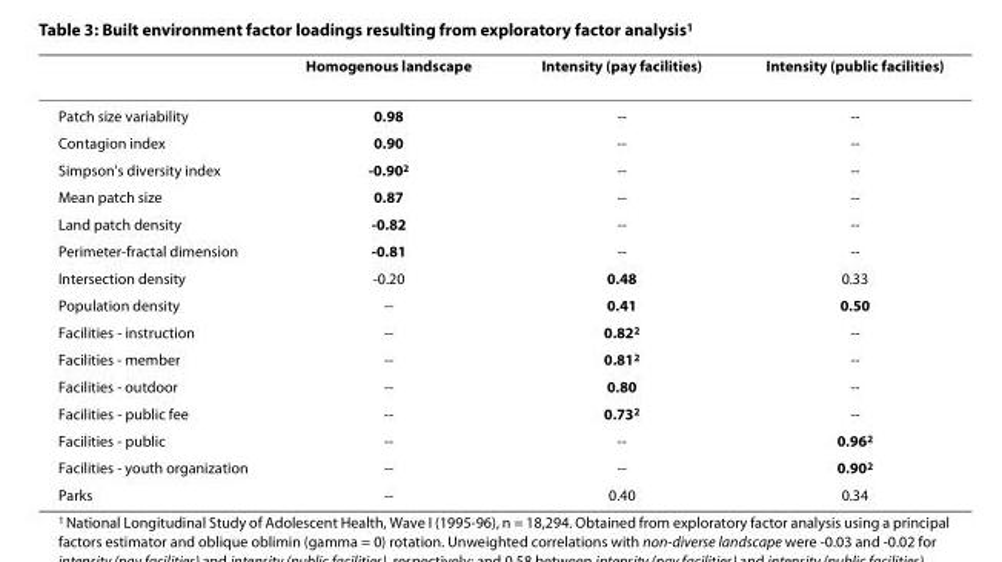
<table><thead><tr><td></td><td>Homogenous landscape</td><td>Intensity (pay facilities)</td><td>Intensity (public facilities)</td></tr></thead><tbody><tr><td>Patch size variability</td><td>0.98</td><td>--</td><td>--</td></tr><tr><td>Contagion index</td><td>0.90</td><td>--</td><td>--</td></tr><tr><td>Simpson&#x27;s diversity index</td><td>-0.90<sup>2</sup></td><td>--</td><td>--</td></tr><tr><td>Mean patch size</td><td>0.87</td><td>--</td><td>--</td></tr><tr><td>Land patch density</td><td>-0.82</td><td>--</td><td>--</td></tr><tr><td>Perimeter-fractal dimension</td><td>-0.81</td><td>--</td><td>--</td></tr><tr><td>Intersection density</td><td>-0.20</td><td>0.48</td><td>0.33</td></tr><tr><td>Population density</td><td>--</td><td>0.41</td><td>0.50</td></tr><tr><td>Facilities - instruction</td><td>--</td><td>0.82<sup>2</sup></td><td>--</td></tr><tr><td>Facilities - member</td><td>--</td><td>0.81<sup>2</sup></td><td>--</td></tr><tr><td>Facilities - outdoor</td><td>--</td><td>0.80</td><td>--</td></tr><tr><td>Facilities - public fee</td><td>--</td><td>0.73<sup>2</sup></td><td>--</td></tr><tr><td>Facilities - public</td><td>--</td><td>--</td><td>0.96<sup>2</sup></td></tr><tr><td>Facilities - youth organization</td><td>--</td><td>--</td><td>0.90<sup>2</sup></td></tr><tr><td>Parks</td><td>--</td><td>0.40</td><td>0.34</td></tr></tbody></table>